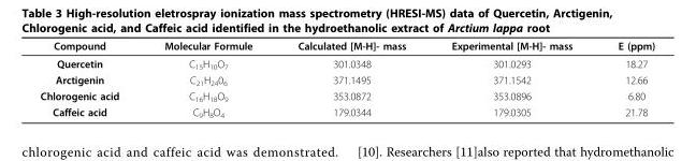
<table><thead><tr><td>Compound</td><td>Molecular Formule</td><td>Calculated [M-H]- mass</td><td>Experimental [M-H]- mass</td><td>E (ppm)</td></tr></thead><tbody><tr><td>Quercetin</td><td>C<sub>15</sub>H<sub>10</sub>O<sub>7</sub></td><td>301.0348</td><td>301.0293</td><td>18.27</td></tr><tr><td>Arctigenin</td><td>C<sub>21</sub>H<sub>24</sub>0<sub>6</sub></td><td>371.1495</td><td>371.1542</td><td>12.66</td></tr><tr><td>Chlorogenic acid</td><td>C<sub>16</sub>H<sub>18</sub>O<sub>9</sub></td><td>353.0872</td><td>353.0896</td><td>6.80</td></tr><tr><td>Caffeic acid</td><td>C<sub>9</sub>H<sub>8</sub>O<sub>4</sub></td><td>179.0344</td><td>179.0305</td><td>21.78</td></tr></tbody></table>